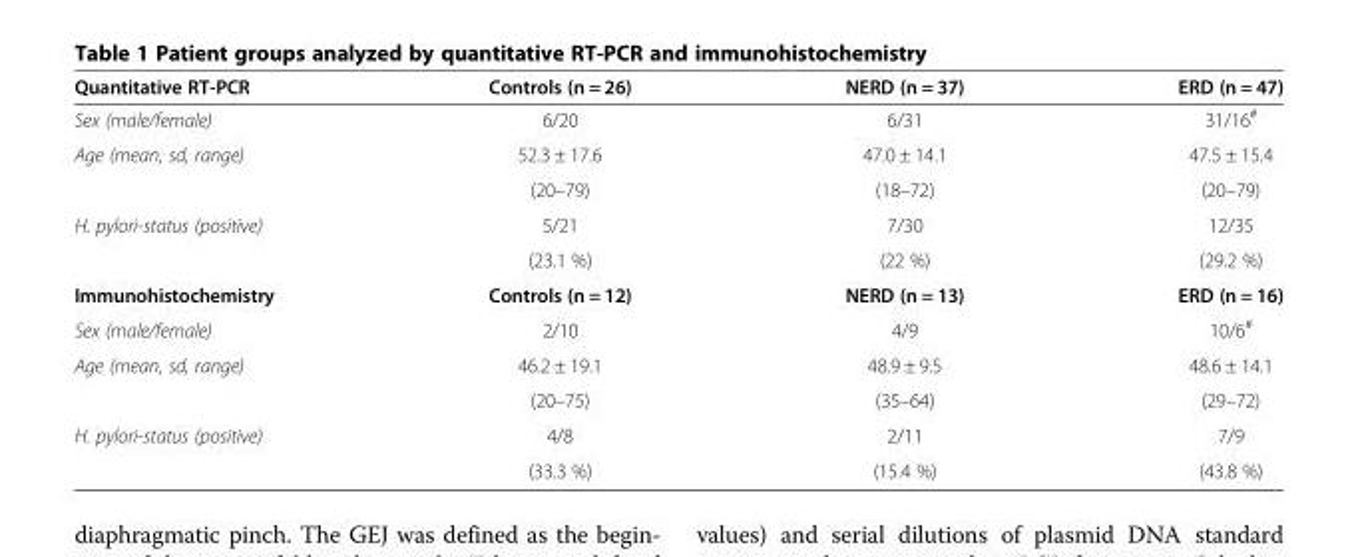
<table><thead><tr><td>Quantitative RT-PCR</td><td>Controls (n = 26)</td><td>NERD (n = 37)</td><td>ERD (n = 47)</td></tr></thead><tbody><tr><td>Sex (male/female)</td><td>6/20</td><td>6/31</td><td>31/16<sup>#</sup></td></tr><tr><td rowspan="2">Age (mean, sd, range)</td><td>52.3 ± 17.6</td><td>47.0 ± 14.1</td><td>47.5 ± 15.4</td></tr><tr><td>(20–79)</td><td>(18–72)</td><td>(20–79)</td></tr><tr><td rowspan="2">H. pylori-status (positive)</td><td>5/21</td><td>7/30</td><td>12/35</td></tr><tr><td>(23.1 %)</td><td>(22 %)</td><td>(29.2 %)</td></tr><tr><td>Immunohistochemistry</td><td>Controls (n = 12)</td><td>NERD (n = 13)</td><td>ERD (n = 16)</td></tr><tr><td>Sex (male/female)</td><td>2/10</td><td>4/9</td><td>10/6<sup>#</sup></td></tr><tr><td rowspan="2">Age (mean, sd, range)</td><td>46.2 ± 19.1</td><td>48.9 ± 9.5</td><td>48.6 ± 14.1</td></tr><tr><td>(20–75)</td><td>(35–64)</td><td>(29–72)</td></tr><tr><td rowspan="2">H. pylori-status (positive)</td><td>4/8</td><td>2/11</td><td>7/9</td></tr><tr><td>(33.3 %)</td><td>(15.4 %)</td><td>(43.8 %)</td></tr></tbody></table>